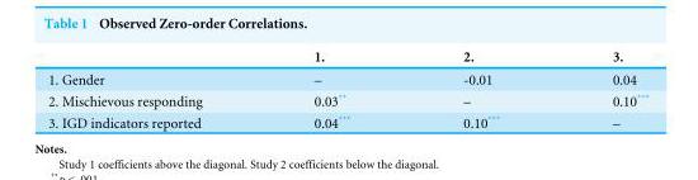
<table><thead><tr><td></td><td>1.</td><td>2.</td><td>3.</td></tr></thead><tbody><tr><td>1. Gender</td><td>–</td><td>-0.01</td><td>0.04</td></tr><tr><td>2. Mischievous responding</td><td>0.03**</td><td>–</td><td>0.10***</td></tr><tr><td>3. IGD indicators reported</td><td>0.04***</td><td>0.10***</td><td>–</td></tr></tbody></table>